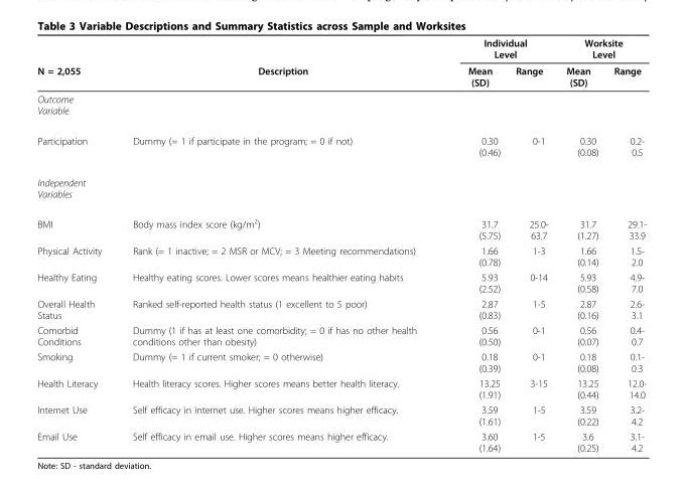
<table><thead><tr><td rowspan="2">N = 2,055</td><td rowspan="2">Description</td><td colspan="2">Individual Level</td><td colspan="2">Worksite Level</td></tr><tr><td>Mean (SD)</td><td>Range</td><td>Mean (SD)</td><td>Range</td></tr></thead><tbody><tr><td colspan="6">Outcome Variable</td></tr><tr><td>Participation</td><td>Dummy (= 1 if participate in the program; = 0 if not)</td><td>0.30 (0.46)</td><td>0-1</td><td>0.30 (0.08)</td><td>0.2- 0.5</td></tr><tr><td colspan="6">Independent Variables</td></tr><tr><td>BMI</td><td>Body mass index score (kg/m<sup>2</sup>)</td><td>31.7 (5.75)</td><td>25.0- 63.7</td><td>31.7 (1.27)</td><td>29.1- 33.9</td></tr><tr><td>Physical Activity</td><td>Rank (= 1 inactive; = 2 MSR or MCV; = 3 Meeting recommendations)</td><td>1.66 (0.78)</td><td>1-3</td><td>1.66 (0.14)</td><td>1.5- 2.0</td></tr><tr><td>Healthy Eating</td><td>Healthy eating scores. Lower scores means healthier eating habits</td><td>5.93 (2.52)</td><td>0-14</td><td>5.93 (0.58)</td><td>4.9- 7.0</td></tr><tr><td>Overall Health Status</td><td>Ranked self-reported health status (1 excellent to 5 poor)</td><td>2.87 (0.83)</td><td>1-5</td><td>2.87 (0.16)</td><td>2.6- 3.1</td></tr><tr><td>Comorbid Conditions</td><td>Dummy (1 if has at least one comorbidity; = 0 if has no other health conditions other than obesity)</td><td>0.56 (0.50)</td><td>0-1</td><td>0.56 (0.07)</td><td>0.4- 0.7</td></tr><tr><td>Smoking</td><td>Dummy (= 1 if current smoker; = 0 otherwise)</td><td>0.18 (0.39)</td><td>0-1</td><td>0.18 (0.08)</td><td>0.1- 0.3</td></tr><tr><td>Health Literacy</td><td>Health literacy scores. Higher scores means better health literacy.</td><td>13.25 (1.91)</td><td>3-15</td><td>13.25 (0.44)</td><td>12.0- 14.0</td></tr><tr><td>Internet Use</td><td>Self efficacy in internet use. Higher scores means higher efficacy.</td><td>3.59 (1.61)</td><td>1-5</td><td>3.59 (0.22)</td><td>3.2- 4.2</td></tr><tr><td>Email Use</td><td>Self efficacy in email use. Higher scores means higher efficacy.</td><td>3.60 (1.64)</td><td>1-5</td><td>3.6 (0.25)</td><td>3.1- 4.2</td></tr></tbody></table>